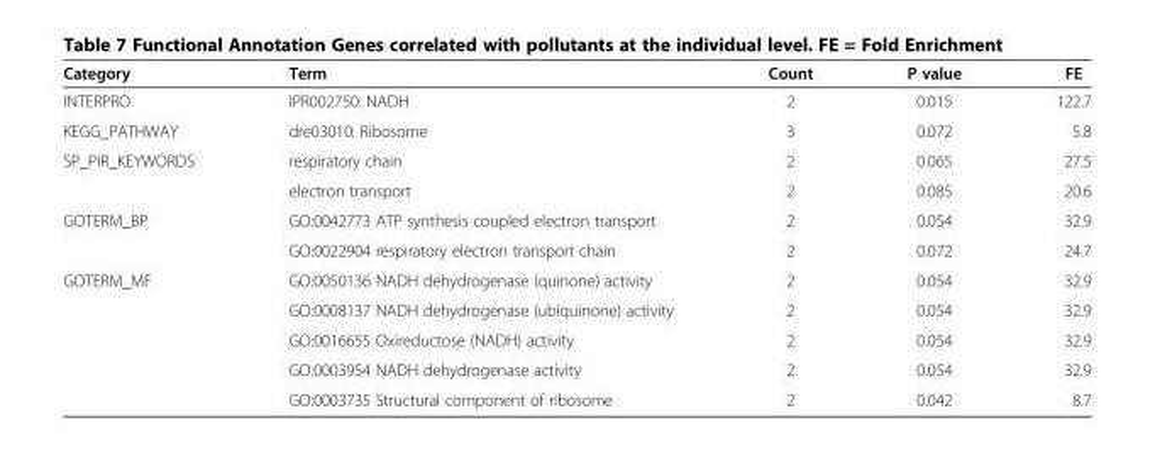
<table><thead><tr><td>Category</td><td>Term</td><td>Count</td><td>P value</td><td>FE</td></tr></thead><tbody><tr><td>INTERPRO</td><td>IPR002750: NADH</td><td>2</td><td>0.015</td><td>122.7</td></tr><tr><td>KEGG_PATHWAY</td><td>dre03010: Ribosome</td><td>3</td><td>0.072</td><td>5.8</td></tr><tr><td rowspan="2">SP_PIR_KEYWORDS</td><td>respiratory chain</td><td>2</td><td>0.065</td><td>27.5</td></tr><tr><td>electron transport</td><td>2</td><td>0.085</td><td>20.6</td></tr><tr><td rowspan="2">GOTERM_BP</td><td>GO:0042773 ATP synthesis coupled electron transport</td><td>2</td><td>0.054</td><td>32.9</td></tr><tr><td>GO:0022904 respiratory electron transport chain</td><td>2</td><td>0.072</td><td>24.7</td></tr><tr><td rowspan="5">GOTERM_MF</td><td>GO:0050136 NADH dehydrogenase (quinone) activity</td><td>2</td><td>0.054</td><td>32.9</td></tr><tr><td>GO:0008137 NADH dehydrogenase (ubiquinone) activity</td><td>2</td><td>0.054</td><td>32.9</td></tr><tr><td>GO:0016655 Oxireductose (NADH) activity</td><td>2</td><td>0.054</td><td>32.9</td></tr><tr><td>GO:0003954 NADH dehydrogenase activity</td><td>2</td><td>0.054</td><td>32.9</td></tr><tr><td>GO:0003735 Structural component of ribosome</td><td>2</td><td>0.042</td><td>8.7</td></tr></tbody></table>